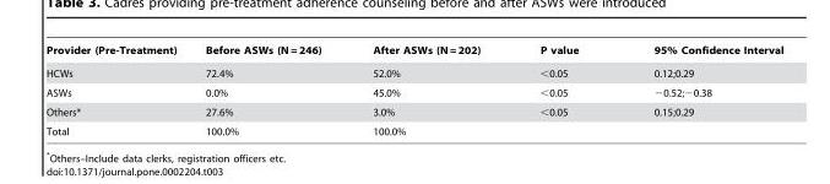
<table><thead><tr><td>Provider (Pre-Treatment)</td><td>Before ASWs (N = 246)</td><td>After ASWs (N = 202)</td><td>P value</td><td>95% Confidence Interval</td></tr></thead><tbody><tr><td>HCWs</td><td>72.4%</td><td>52.0%</td><td>&lt;0.05</td><td>0.12;0.29</td></tr><tr><td>ASWs</td><td>0.0%</td><td>45.0%</td><td>&lt;0.05</td><td>−0.52;−0.38</td></tr><tr><td>Others*</td><td>27.6%</td><td>3.0%</td><td>&lt;0.05</td><td>0.15;0.29</td></tr><tr><td>Total</td><td>100.0%</td><td>100.0%</td><td></td><td></td></tr></tbody></table>